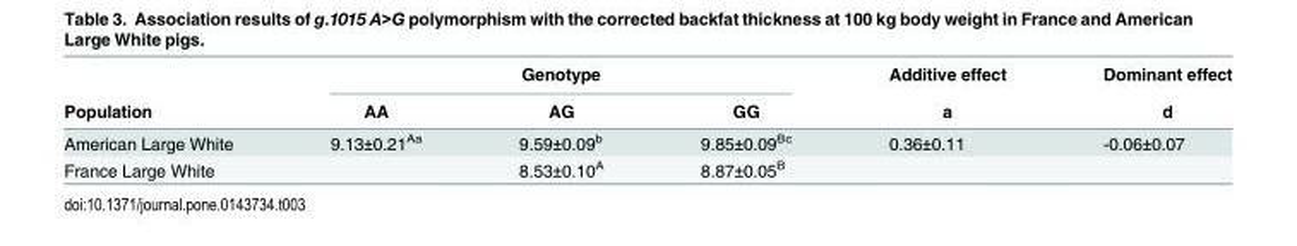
<table><thead><tr><td rowspan="2">Population</td><td colspan="3">Genotype</td><td rowspan="2">Additive effect a</td><td rowspan="2">Dominant effect d</td></tr><tr><td>AA</td><td>AG</td><td>GG</td></tr></thead><tbody><tr><td>American Large White</td><td>9.13±0.21<sup>Aa</sup></td><td>9.59±0.09<sup>b</sup></td><td>9.85±0.09<sup>Bc</sup></td><td>0.36±0.11</td><td>-0.06±0.07</td></tr><tr><td>France Large White</td><td></td><td>8.53±0.10<sup>A</sup></td><td>8.87±0.05<sup>B</sup></td><td></td><td></td></tr></tbody></table>